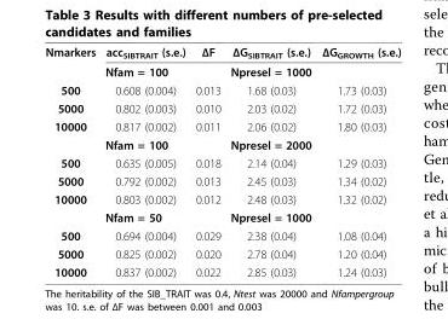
<table><tbody><tr><td rowspan="2">Nmarkers</td><td>acc<sub>SIBTRAIT</sub> (s.e.)</td><td>ΔF</td><td>ΔG<sub>SIBTRAIT</sub> (s.e.)</td><td>ΔG<sub>GROWTH</sub> (s.e.)</td></tr><tr><td>Nfam = 100</td><td></td><td>Npresel = 1000</td><td></td></tr><tr><td>500</td><td>0.608 (0.004)</td><td>0.013</td><td>1.68 (0.03)</td><td>1.73 (0.03)</td></tr><tr><td>5000</td><td>0.802 (0.003)</td><td>0.010</td><td>2.03 (0.02)</td><td>1.72 (0.03)</td></tr><tr><td rowspan="2">10000</td><td>0.817 (0.002)</td><td>0.011</td><td>2.06 (0.02)</td><td>1.80 (0.03)</td></tr><tr><td>Nfam = 100</td><td></td><td>Npresel = 2000</td><td></td></tr><tr><td>500</td><td>0.635 (0.005)</td><td>0.018</td><td>2.14 (0.04)</td><td>1.29 (0.03)</td></tr><tr><td>5000</td><td>0.792 (0.002)</td><td>0.013</td><td>2.45 (0.03)</td><td>1.34 (0.02)</td></tr><tr><td rowspan="2">10000</td><td>0.803 (0.002)</td><td>0.012</td><td>2.48 (0.03)</td><td>1.32 (0.02)</td></tr><tr><td>Nfam = 50</td><td></td><td>Npresel = 1000</td><td></td></tr><tr><td>500</td><td>0.694 (0.004)</td><td>0.029</td><td>2.38 (0.04)</td><td>1.08 (0.04)</td></tr><tr><td>5000</td><td>0.825 (0.002)</td><td>0.020</td><td>2.78 (0.04)</td><td>1.20 (0.04)</td></tr><tr><td>10000</td><td>0.837 (0.002)</td><td>0.022</td><td>2.85 (0.03)</td><td>1.24 (0.03)</td></tr></tbody></table>